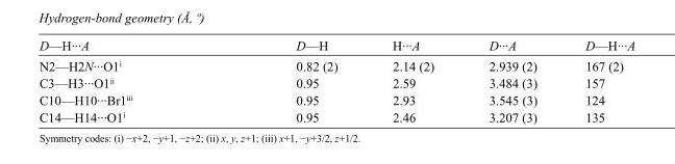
<table><tbody><tr><td>D—H···A</td><td>D—H</td><td>H···A</td><td>D···A</td><td>D—H···A</td></tr><tr><td>N2—H2N···O1<sup>i</sup></td><td>0.82 (2)</td><td>2.14 (2)</td><td>2.939 (2)</td><td>167 (2)</td></tr><tr><td>C3—H3···O1<sup>ii</sup></td><td>0.95</td><td>2.59</td><td>3.484 (3)</td><td>157</td></tr><tr><td>C10—H10···Br1<sup>iii</sup></td><td>0.95</td><td>2.93</td><td>3.545 (3)</td><td>124</td></tr><tr><td>C14—H14···O1<sup>i</sup></td><td>0.95</td><td>2.46</td><td>3.207 (3)</td><td>135</td></tr></tbody></table>